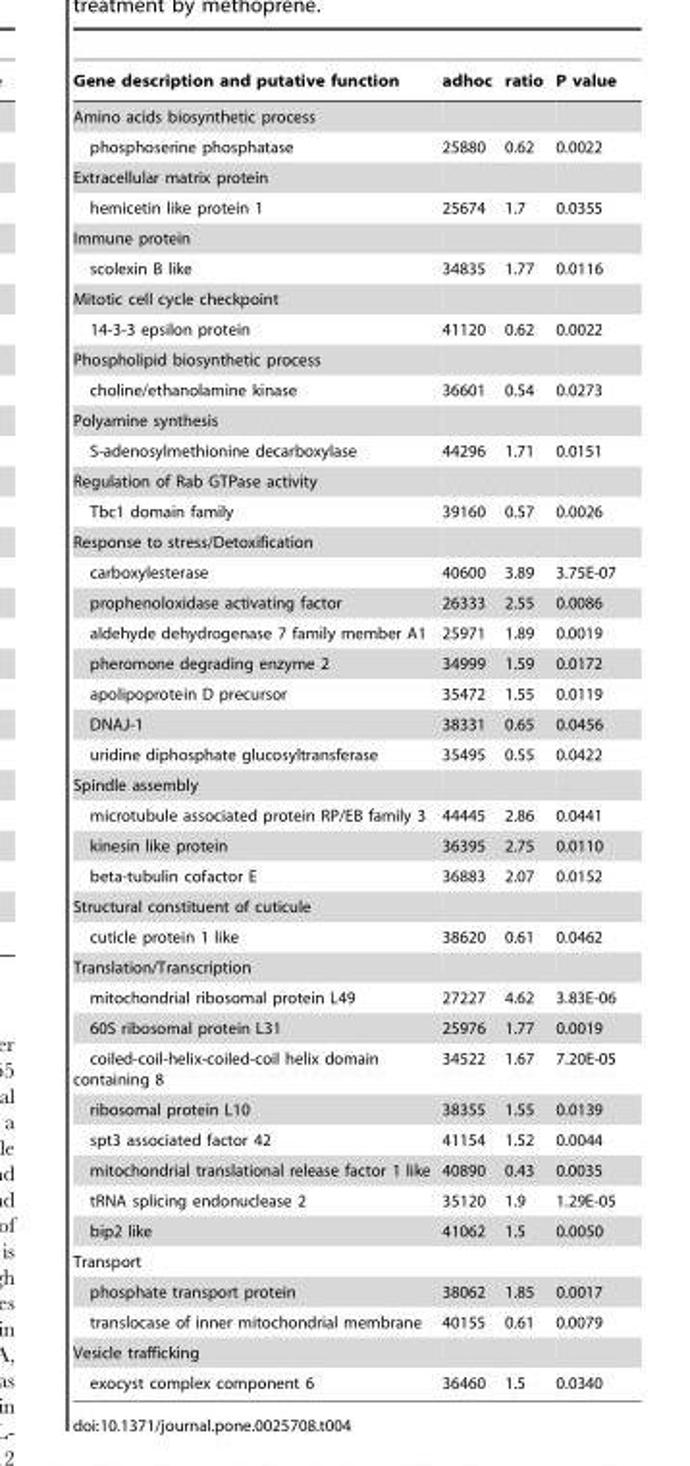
<table><thead><tr><td>Gene description and putative function</td><td>adhoc</td><td>ratio</td><td>P value</td></tr></thead><tbody><tr><td colspan="4">Amino acids biosynthetic process</td></tr><tr><td>phosphoserine phosphatase</td><td>25880</td><td>0.62</td><td>0.0022</td></tr><tr><td colspan="4">Extracellular matrix protein</td></tr><tr><td>hemicetin like protein 1</td><td>25674</td><td>1.7</td><td>0.0355</td></tr><tr><td colspan="4">Immune protein</td></tr><tr><td>scolexin B like</td><td>34835</td><td>1.77</td><td>0.0116</td></tr><tr><td colspan="4">Mitotic cell cycle checkpoint</td></tr><tr><td>14-3-3 epsilon protein</td><td>41120</td><td>0.62</td><td>0.0022</td></tr><tr><td colspan="4">Phospholipid biosynthetic process</td></tr><tr><td>choline/ethanolamine kinase</td><td>36601</td><td>0.54</td><td>0.0273</td></tr><tr><td colspan="4">Polyamine synthesis</td></tr><tr><td>S-adenosylmethionine decarboxylase</td><td>44296</td><td>1.71</td><td>0.0151</td></tr><tr><td colspan="4">Regulation of Rab GTPase activity</td></tr><tr><td>Tbc1 domain family</td><td>39160</td><td>0.57</td><td>0.0026</td></tr><tr><td colspan="4">Response to stress/Detoxification</td></tr><tr><td>carboxylesterase</td><td>40600</td><td>3.89</td><td>3.75E-07</td></tr><tr><td>prophenoloxidase activating factor</td><td>26333</td><td>2.55</td><td>0.0086</td></tr><tr><td>aldehyde dehydrogenase 7 family member A1</td><td>25971</td><td>1.89</td><td>0.0019</td></tr><tr><td>pheromone degrading enzyme 2</td><td>34999</td><td>1.59</td><td>0.0172</td></tr><tr><td>apolipoprotein D precursor</td><td>35472</td><td>1.55</td><td>0.0119</td></tr><tr><td>DNAJ-1</td><td>38331</td><td>0.65</td><td>0.0456</td></tr><tr><td>uridine diphosphate glucosyltransferase</td><td>35495</td><td>0.55</td><td>0.0422</td></tr><tr><td colspan="4">Spindle assembly</td></tr><tr><td>microtubule associated protein RP/EB family 3</td><td>44445</td><td>2.86</td><td>0.0441</td></tr><tr><td>kinesin like protein</td><td>36395</td><td>2.75</td><td>0.0110</td></tr><tr><td>beta-tubulin cofactor E</td><td>36883</td><td>2.07</td><td>0.0152</td></tr><tr><td colspan="4">Structural constituent of cuticule</td></tr><tr><td>cuticle protein 1 like</td><td>38620</td><td>0.61</td><td>0.0462</td></tr><tr><td colspan="4">Translation/Transcription</td></tr><tr><td>mitochondrial ribosomal protein L49</td><td>27227</td><td>4.62</td><td>3.83E-06</td></tr><tr><td>60S ribosomal protein L31</td><td>25976</td><td>1.77</td><td>0.0019</td></tr><tr><td>coiled-coil-helix-coiled-coil helix domain containing 8</td><td>34522</td><td>1.67</td><td>7.20E-05</td></tr><tr><td>ribosomal protein L10</td><td>38355</td><td>1.55</td><td>0.0139</td></tr><tr><td>spt3 associated factor 42</td><td>41154</td><td>1.52</td><td>0.0044</td></tr><tr><td>mitochondrial translational release factor 1 like</td><td>40890</td><td>0.43</td><td>0.0035</td></tr><tr><td>tRNA splicing endonuclease 2</td><td>35120</td><td>1.9</td><td>1.29E-05</td></tr><tr><td>bip2 like</td><td>41062</td><td>1.5</td><td>0.0050</td></tr><tr><td colspan="4">Transport</td></tr><tr><td>phosphate transport protein</td><td>38062</td><td>1.85</td><td>0.0017</td></tr><tr><td>translocase of inner mitochondrial membrane</td><td>40155</td><td>0.61</td><td>0.0079</td></tr><tr><td colspan="4">Vesicle trafficking</td></tr><tr><td>exocyst complex component 6</td><td>36460</td><td>1.5</td><td>0.0340</td></tr></tbody></table>